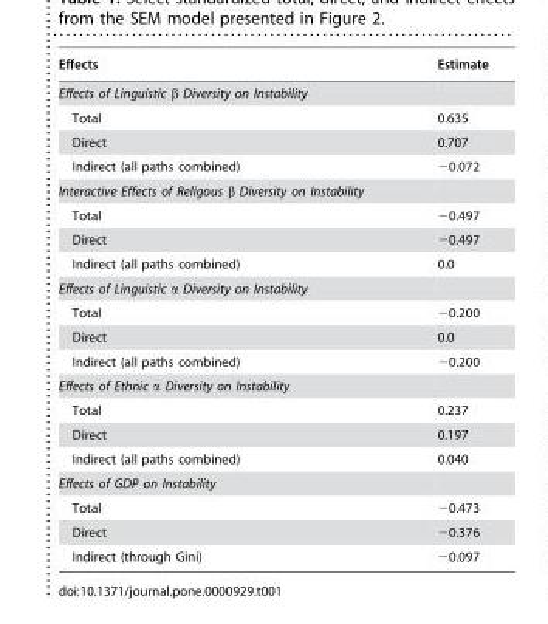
<table><thead><tr><td>Effects</td><td>Estimate</td></tr></thead><tbody><tr><td colspan="2">Effects of Linguistic β Diversity on Instability</td></tr><tr><td>Total</td><td>0.635</td></tr><tr><td>Direct</td><td>0.707</td></tr><tr><td>Indirect (all paths combined)</td><td>−0.072</td></tr><tr><td colspan="2">Interactive Effects of Religous β Diversity on Instability</td></tr><tr><td>Total</td><td>−0.497</td></tr><tr><td>Direct</td><td>−0.497</td></tr><tr><td>Indirect (all paths combined)</td><td>0.0</td></tr><tr><td colspan="2">Effects of Linguistic α Diversity on Instability</td></tr><tr><td>Total</td><td>−0.200</td></tr><tr><td>Direct</td><td>0.0</td></tr><tr><td>Indirect (all paths combined)</td><td>−0.200</td></tr><tr><td colspan="2">Effects of Ethnic α Diversity on Instability</td></tr><tr><td>Total</td><td>0.237</td></tr><tr><td>Direct</td><td>0.197</td></tr><tr><td>Indirect (all paths combined)</td><td>0.040</td></tr><tr><td colspan="2">Effects of GDP on Instability</td></tr><tr><td>Total</td><td>−0.473</td></tr><tr><td>Direct</td><td>−0.376</td></tr><tr><td>Indirect (through Gini)</td><td>−0.097</td></tr></tbody></table>